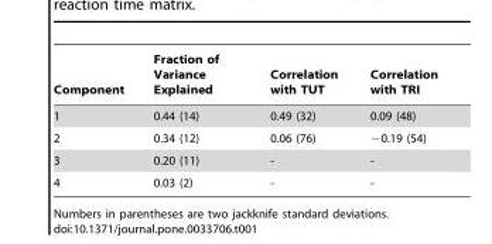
<table><thead><tr><td>Component</td><td>Fraction of Variance Explained</td><td>Correlation with TUT</td><td>Correlation with TRI</td></tr></thead><tbody><tr><td>1</td><td>0.44 (14)</td><td>0.49 (32)</td><td>0.09 (48)</td></tr><tr><td>2</td><td>0.34 (12)</td><td>0.06 (76)</td><td>−0.19 (54)</td></tr><tr><td>3</td><td>0.20 (11)</td><td>-</td><td>-</td></tr><tr><td>4</td><td>0.03 (2)</td><td>-</td><td>-</td></tr></tbody></table>